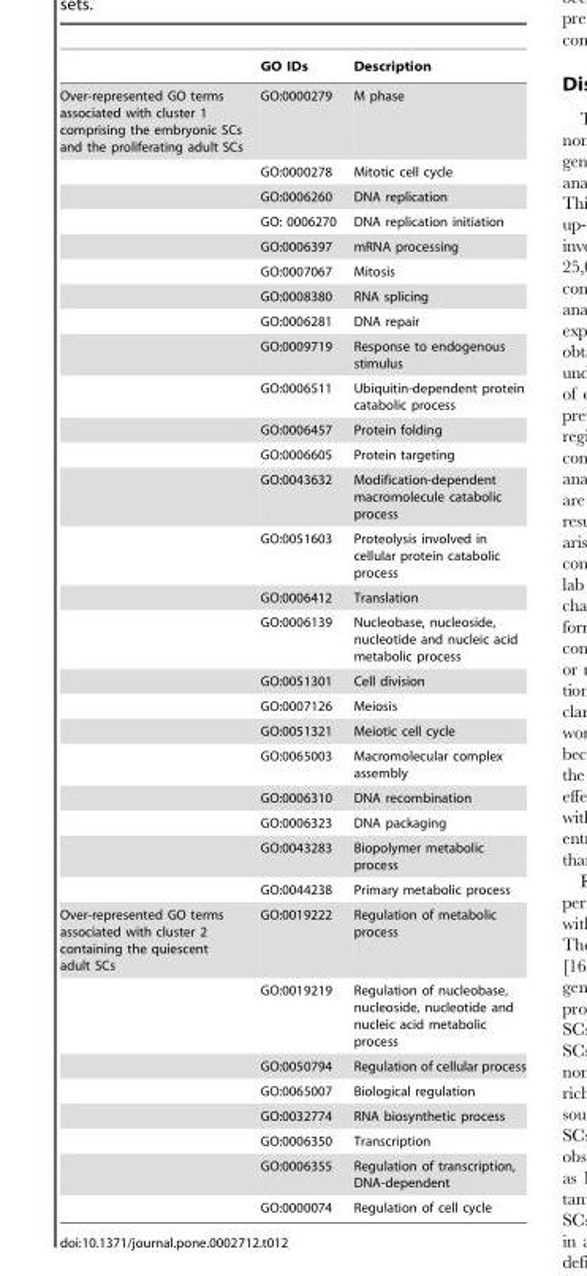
<table><thead><tr><td></td><td>GO IDs</td><td>Description</td></tr></thead><tbody><tr><td rowspan="24">Over-represented GO terms associated with cluster 1 comprising the embryonic SCs and the proliferating adult SCs</td><td>GO:0000279</td><td>M phase</td></tr><tr><td>GO:0000278</td><td>Mitotic cell cycle</td></tr><tr><td>GO:0006260</td><td>DNA replication</td></tr><tr><td>GO: 0006270</td><td>DNA replication initiation</td></tr><tr><td>GO:0006397</td><td>mRNA processing</td></tr><tr><td>GO:0007067</td><td>Mitosis</td></tr><tr><td>GO:0008380</td><td>RNA splicing</td></tr><tr><td>GO:0006281</td><td>DNA repair</td></tr><tr><td>GO:0009719</td><td>Response to endogenous stimulus</td></tr><tr><td>GO:0006511</td><td>Ubiquitin-dependent protein catabolic process</td></tr><tr><td>GO:0006457</td><td>Protein folding</td></tr><tr><td>GO:0006605</td><td>Protein targeting</td></tr><tr><td>GO:0043632</td><td>Modification-dependent macromolecule catabolic process</td></tr><tr><td>GO:0051603</td><td>Proteolysis involved in cellular protein catabolic process</td></tr><tr><td>GO:0006412</td><td>Translation</td></tr><tr><td>GO:0006139</td><td>Nucleobase, nucleoside, nucleotide and nucleic acid metabolic process</td></tr><tr><td>GO:0051301</td><td>Cell division</td></tr><tr><td>GO:0007126</td><td>Meiosis</td></tr><tr><td>GO:0051321</td><td>Meiotic cell cycle</td></tr><tr><td>GO:0065003</td><td>Macromolecular complex assembly</td></tr><tr><td>GO:0006310</td><td>DNA recombination</td></tr><tr><td>GO:0006323</td><td>DNA packaging</td></tr><tr><td>GO:0043283</td><td>Biopolymer metabolic process</td></tr><tr><td>GO:0044238</td><td>Primary metabolic process</td></tr><tr><td rowspan="8">Over-represented GO terms associated with cluster 2 containing the quiescent adult SCs</td><td>GO:0019222</td><td>Regulation of metabolic process</td></tr><tr><td>GO:0019219</td><td>Regulation of nucleobase, nucleoside, nucleotide and nucleic acid metabolic process</td></tr><tr><td>GO:0050794</td><td>Regulation of cellular process</td></tr><tr><td>GO:0065007</td><td>Biological regulation</td></tr><tr><td>GO:0032774</td><td>RNA biosynthetic process</td></tr><tr><td>GO:0006350</td><td>Transcription</td></tr><tr><td>GO:0006355</td><td>Regulation of transcription, DNA-dependent</td></tr><tr><td>GO:0000074</td><td>Regulation of cell cycle</td></tr></tbody></table>